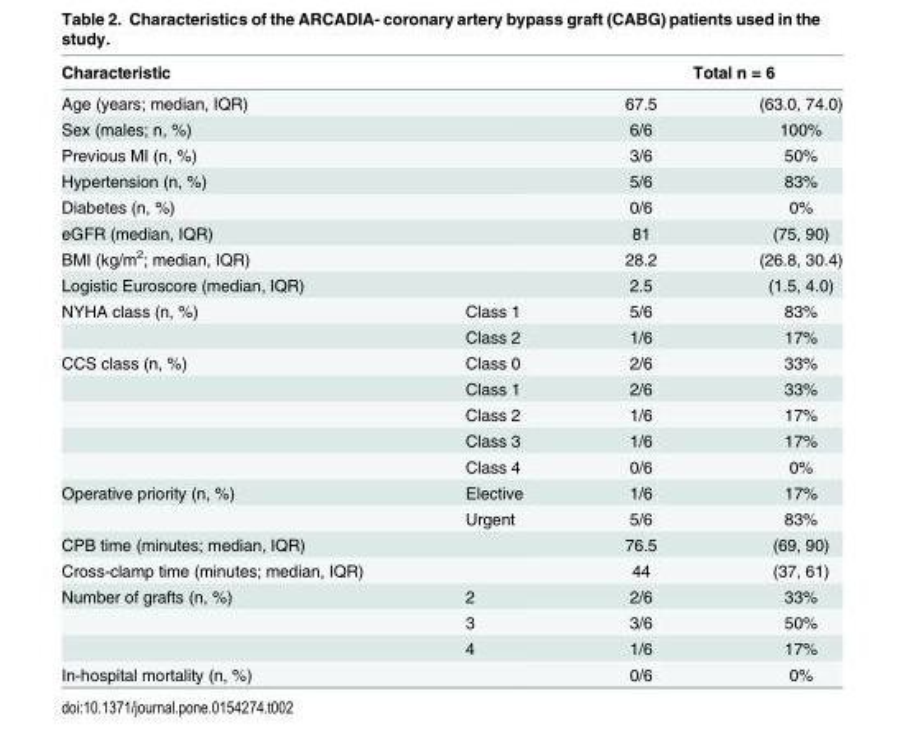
<table><thead><tr><td colspan="2">Characteristic</td><td colspan="2">Total n = 6</td></tr><tr><td>Age (years; median, IQR)</td><td></td><td>67.5</td><td>(63.0, 74.0)</td></tr></thead><tbody><tr><td>Sex (males; n, %)</td><td></td><td>6/6</td><td>100%</td></tr><tr><td>Previous MI (n, %)</td><td></td><td>3/6</td><td>50%</td></tr><tr><td>Hypertension (n, %)</td><td></td><td>5/6</td><td>83%</td></tr><tr><td>Diabetes (n, %)</td><td></td><td>0/6</td><td>0%</td></tr><tr><td>eGFR (median, IQR)</td><td></td><td>81</td><td>(75, 90)</td></tr><tr><td>BMI (kg/m<sup>2</sup>; median, IQR)</td><td></td><td>28.2</td><td>(26.8, 30.4)</td></tr><tr><td>Logistic Euroscore (median, IQR)</td><td></td><td>2.5</td><td>(1.5, 4.0)</td></tr><tr><td rowspan="2">NYHA class (n, %)</td><td>Class 1</td><td>5/6</td><td>83%</td></tr><tr><td>Class 2</td><td>1/6</td><td>17%</td></tr><tr><td rowspan="5">CCS class (n, %)</td><td>Class 0</td><td>2/6</td><td>33%</td></tr><tr><td>Class 1</td><td>2/6</td><td>33%</td></tr><tr><td>Class 2</td><td>1/6</td><td>17%</td></tr><tr><td>Class 3</td><td>1/6</td><td>17%</td></tr><tr><td>Class 4</td><td>0/6</td><td>0%</td></tr><tr><td rowspan="2">Operative priority (n, %)</td><td>Elective</td><td>1/6</td><td>17%</td></tr><tr><td>Urgent</td><td>5/6</td><td>83%</td></tr><tr><td>CPB time (minutes; median, IQR)</td><td></td><td>76.5</td><td>(69, 90)</td></tr><tr><td>Cross-clamp time (minutes; median, IQR)</td><td></td><td>44</td><td>(37, 61)</td></tr><tr><td rowspan="3">Number of grafts (n, %)</td><td>2</td><td>2/6</td><td>33%</td></tr><tr><td>3</td><td>3/6</td><td>50%</td></tr><tr><td>4</td><td>1/6</td><td>17%</td></tr><tr><td>In-hospital mortality (n, %)</td><td></td><td>0/6</td><td>0%</td></tr></tbody></table>